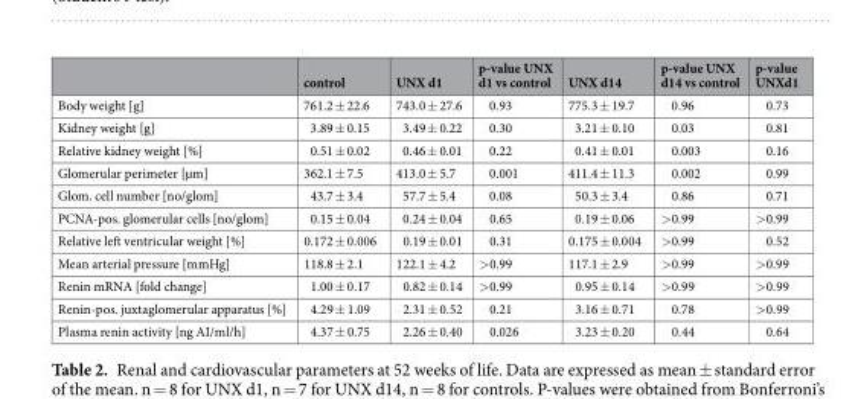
<table><thead><tr><td></td><td>control</td><td>UNX d1</td><td>p-value UNX d1 vs control</td><td>UNX d14</td><td>p-value UNX d14 vs control</td><td>p-value UNXd1</td></tr></thead><tbody><tr><td>Body weight [g]</td><td>761.2 ± 22.6</td><td>743.0 ± 27.6</td><td>0.93</td><td>775.3 ± 19.7</td><td>0.96</td><td>0.73</td></tr><tr><td>Kidney weight [g]</td><td>3.89 ± 0.15</td><td>3.49 ± 0.22</td><td>0.30</td><td>3.21 ± 0.10</td><td>0.03</td><td>0.81</td></tr><tr><td>Relative kidney weight [%]</td><td>0.51 ± 0.02</td><td>0.46 ± 0.01</td><td>0.22</td><td>0.41 ± 0.01</td><td>0.003</td><td>0.16</td></tr><tr><td>Glomerular perimeter [µm]</td><td>362.1 ± 7.5</td><td>413.0 ± 5.7</td><td>0.001</td><td>411.4 ± 11.3</td><td>0.002</td><td>0.99</td></tr><tr><td>Glom. cell number [no/glom]</td><td>43.7 ± 3.4</td><td>57.7 ± 5.4</td><td>0.08</td><td>50.3 ± 3.4</td><td>0.86</td><td>0.71</td></tr><tr><td>PCNA-pos. glomerular cells [no/glom]</td><td>0.15 ± 0.04</td><td>0.24 ± 0.04</td><td>0.65</td><td>0.19 ± 0.06</td><td>&gt;0.99</td><td>&gt;0.99</td></tr><tr><td>Relative left ventricular weight [%]</td><td>0.172 ± 0.006</td><td>0.19 ± 0.01</td><td>0.31</td><td>0.175 ± 0.004</td><td>&gt;0.99</td><td>0.52</td></tr><tr><td>Mean arterial pressure [mmHg]</td><td>118.8 ± 2.1</td><td>122.1 ± 4.2</td><td>&gt;0.99</td><td>117.1 ± 2.9</td><td>&gt;0.99</td><td>&gt;0.99</td></tr><tr><td>Renin mRNA [fold change]</td><td>1.00 ± 0.17</td><td>0.82 ± 0.14</td><td>&gt;0.99</td><td>0.95 ± 0.14</td><td>&gt;0.99</td><td>&gt;0.99</td></tr><tr><td>Renin-pos. juxtaglomerular apparatus [%]</td><td>4.29 ± 1.09</td><td>2.31 ± 0.52</td><td>0.21</td><td>3.16 ± 0.71</td><td>0.78</td><td>&gt;0.99</td></tr><tr><td>Plasma renin activity [ng AI/ml/h]</td><td>4.37 ± 0.75</td><td>2.26 ± 0.40</td><td>0.026</td><td>3.23 ± 0.20</td><td>0.44</td><td>0.64</td></tr></tbody></table>